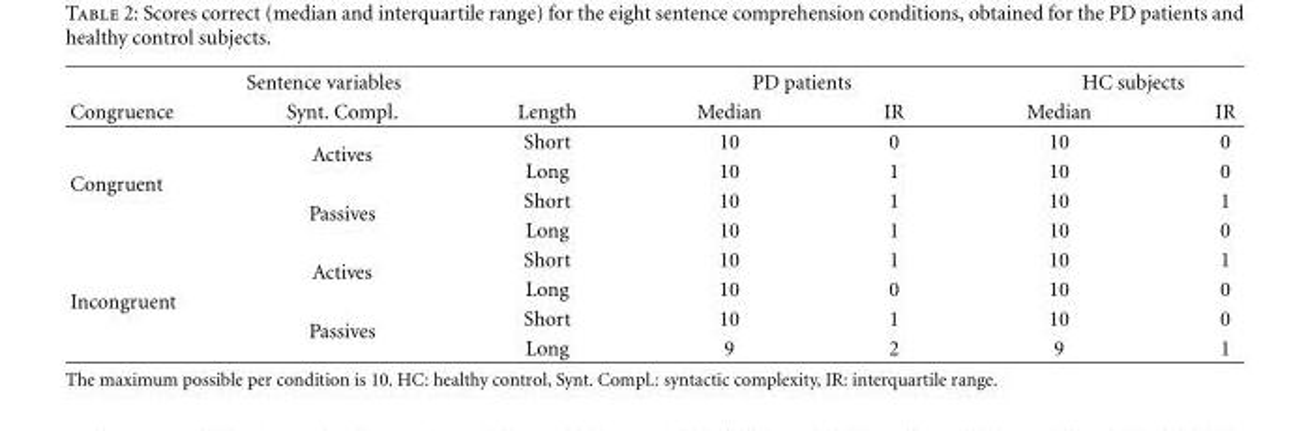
<table><thead><tr><td colspan="3">Sentence variables</td><td colspan="2">PD patients</td><td colspan="2">HC subjects</td></tr><tr><td>Congruence</td><td>Synt. Compl.</td><td>Length</td><td>Median</td><td>IR</td><td>Median</td><td>IR</td></tr></thead><tbody><tr><td rowspan="4">Congruent</td><td rowspan="2">Actives</td><td>Short</td><td>10</td><td>0</td><td>10</td><td>0</td></tr><tr><td>Long</td><td>10</td><td>1</td><td>10</td><td>0</td></tr><tr><td rowspan="2">Passives</td><td>Short</td><td>10</td><td>1</td><td>10</td><td>1</td></tr><tr><td>Long</td><td>10</td><td>1</td><td>10</td><td>0</td></tr><tr><td rowspan="4">Incongruent</td><td rowspan="2">Actives</td><td>Short</td><td>10</td><td>1</td><td>10</td><td>1</td></tr><tr><td>Long</td><td>10</td><td>0</td><td>10</td><td>0</td></tr><tr><td rowspan="2">Passives</td><td>Short</td><td>10</td><td>1</td><td>10</td><td>0</td></tr><tr><td>Long</td><td>9</td><td>2</td><td>9</td><td>1</td></tr></tbody></table>